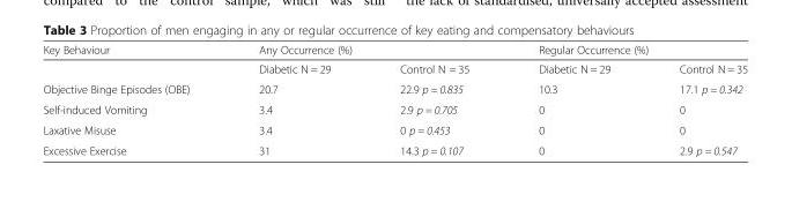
<table><thead><tr><td rowspan="2">Key Behaviour</td><td colspan="2">Any Occurrence (%)</td><td colspan="2">Regular Occurrence (%)</td></tr><tr><td>Diabetic N = 29</td><td>Control N = 35</td><td>Diabetic N = 29</td><td>Control N = 35</td></tr></thead><tbody><tr><td>Objective Binge Episodes (OBE)</td><td>20.7</td><td>22.9 p = 0.835</td><td>10.3</td><td>17.1 p = 0.342</td></tr><tr><td>Self-induced Vomiting</td><td>3.4</td><td>2.9 p = 0.705</td><td>0</td><td>0</td></tr><tr><td>Laxative Misuse</td><td>3.4</td><td>0 p = 0.453</td><td>0</td><td>0</td></tr><tr><td>Excessive Exercise</td><td>31</td><td>14.3 p = 0.107</td><td>0</td><td>2.9 p = 0.547</td></tr></tbody></table>